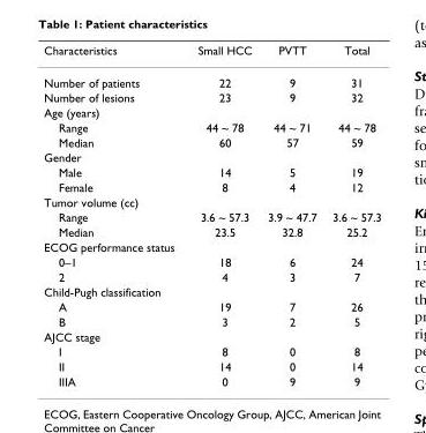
<table><thead><tr><td>Characteristics</td><td>Small HCC</td><td>PVTT</td><td>Total</td></tr></thead><tbody><tr><td>Number of patients</td><td>22</td><td>9</td><td>31</td></tr><tr><td>Number of lesions</td><td>23</td><td>9</td><td>32</td></tr><tr><td colspan="4">Age (years)</td></tr><tr><td>Range</td><td>44 ~ 78</td><td>44 ~ 71</td><td>44 ~ 78</td></tr><tr><td>Median</td><td>60</td><td>57</td><td>59</td></tr><tr><td colspan="4">Gender</td></tr><tr><td>Male</td><td>14</td><td>5</td><td>19</td></tr><tr><td>Female</td><td>8</td><td>4</td><td>12</td></tr><tr><td colspan="4">Tumor volume (cc)</td></tr><tr><td>Range</td><td>3.6 ~ 57.3</td><td>3.9 ~ 47.7</td><td>3.6 ~ 57.3</td></tr><tr><td>Median</td><td>23.5</td><td>32.8</td><td>25.2</td></tr><tr><td colspan="4">ECOG performance status</td></tr><tr><td>0–1</td><td>18</td><td>6</td><td>24</td></tr><tr><td>2</td><td>4</td><td>3</td><td>7</td></tr><tr><td colspan="4">Child-Pugh classification</td></tr><tr><td>A</td><td>19</td><td>7</td><td>26</td></tr><tr><td>B</td><td>3</td><td>2</td><td>5</td></tr><tr><td colspan="4">AJCC stage</td></tr><tr><td>I</td><td>8</td><td>0</td><td>8</td></tr><tr><td>II</td><td>14</td><td>0</td><td>14</td></tr><tr><td>IIIA</td><td>0</td><td>9</td><td>9</td></tr></tbody></table>